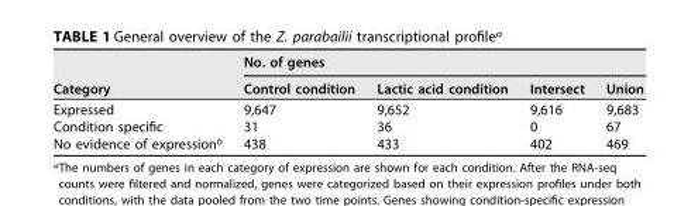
<table><thead><tr><td rowspan="2">Category</td><td colspan="4">No. of genes</td></tr><tr><td>Control condition</td><td>Lactic acid condition</td><td>Intersect</td><td>Union</td></tr></thead><tbody><tr><td>Expressed</td><td>9,647</td><td>9,652</td><td>9,616</td><td>9,683</td></tr><tr><td>Condition specific</td><td>31</td><td>36</td><td>0</td><td>67</td></tr><tr><td>No evidence of expression<sup>b</sup></td><td>438</td><td>433</td><td>402</td><td>469</td></tr></tbody></table>